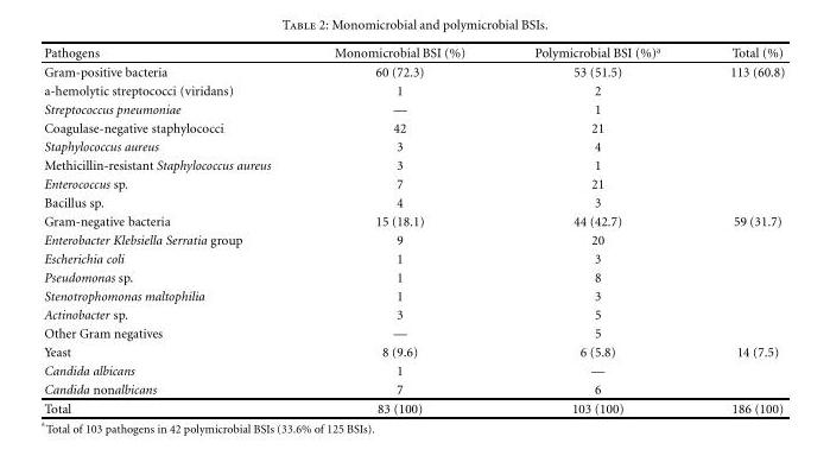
<table><thead><tr><td>Pathogens</td><td>Monomicrobial BSI (%)</td><td>Polymicrobial BSI (%)<sup>a</sup></td><td>Total (%)</td></tr></thead><tbody><tr><td>Gram-positive bacteria</td><td>60 (72.3)</td><td>53 (51.5)</td><td>113 (60.8)</td></tr><tr><td>a-hemolytic streptococci (viridans)</td><td>1</td><td>2</td><td></td></tr><tr><td>Streptococcus pneumoniae</td><td>—</td><td>1</td><td></td></tr><tr><td>Coagulase-negative staphylococci</td><td>42</td><td>21</td><td></td></tr><tr><td>Staphylococcus aureus</td><td>3</td><td>4</td><td></td></tr><tr><td>Methicillin-resistant Staphylococcus aureus</td><td>3</td><td>1</td><td></td></tr><tr><td>Enterococcus sp.</td><td>7</td><td>21</td><td></td></tr><tr><td>Bacillus sp.</td><td>4</td><td>3</td><td></td></tr><tr><td>Gram-negative bacteria</td><td>15 (18.1)</td><td>44 (42.7)</td><td>59 (31.7)</td></tr><tr><td>Enterobacter Klebsiella Serratia group</td><td>9</td><td>20</td><td></td></tr><tr><td>Escherichia coli</td><td>1</td><td>3</td><td></td></tr><tr><td>Pseudomonas sp.</td><td>1</td><td>8</td><td></td></tr><tr><td>Stenotrophomonas maltophilia</td><td>1</td><td>3</td><td></td></tr><tr><td>Actinobacter sp.</td><td>3</td><td>5</td><td></td></tr><tr><td>Other Gram negatives</td><td>—</td><td>5</td><td></td></tr><tr><td>Yeast</td><td>8 (9.6)</td><td>6 (5.8)</td><td>14 (7.5)</td></tr><tr><td>Candida albicans</td><td>1</td><td>—</td><td></td></tr><tr><td>Candida nonalbicans</td><td>7</td><td>6</td><td></td></tr><tr><td>Total</td><td>83 (100)</td><td>103 (100)</td><td>186 (100)</td></tr></tbody></table>